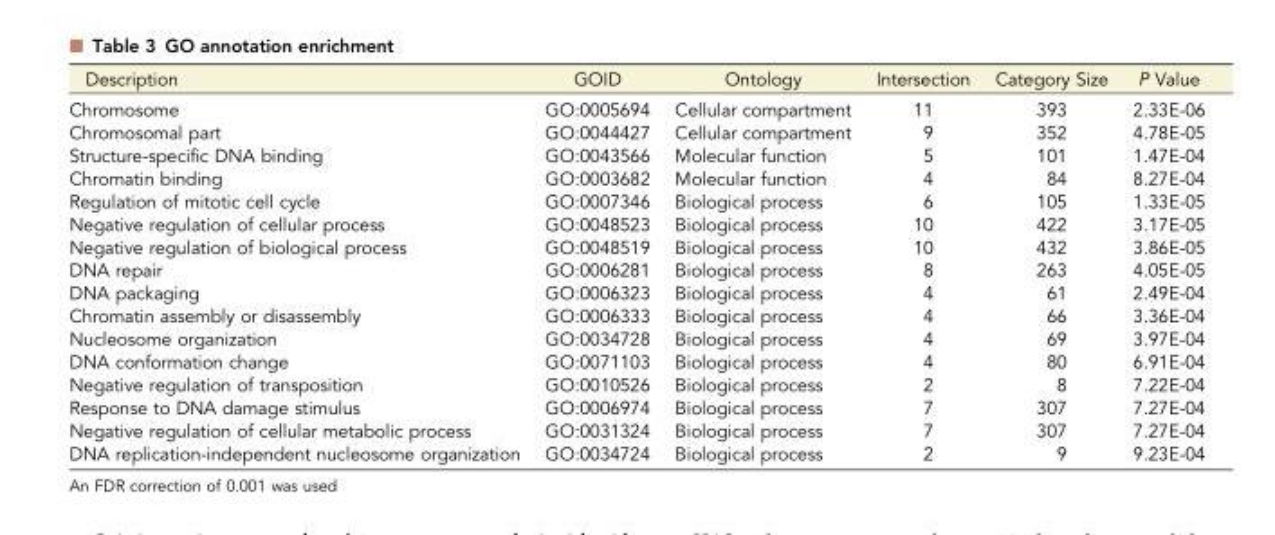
<table><thead><tr><td>Description</td><td>GOID</td><td>Ontology</td><td>Intersection</td><td>Category Size</td><td>P Value</td></tr></thead><tbody><tr><td>Chromosome</td><td>GO:0005694</td><td>Cellular compartment</td><td>11</td><td>393</td><td>2.33E-06</td></tr><tr><td>Chromosomal part</td><td>GO:0044427</td><td>Cellular compartment</td><td>9</td><td>352</td><td>4.78E-05</td></tr><tr><td>Structure-specific DNA binding</td><td>GO:0043566</td><td>Molecular function</td><td>5</td><td>101</td><td>1.47E-04</td></tr><tr><td>Chromatin binding</td><td>GO:0003682</td><td>Molecular function</td><td>4</td><td>84</td><td>8.27E-04</td></tr><tr><td>Regulation of mitotic cell cycle</td><td>GO:0007346</td><td>Biological process</td><td>6</td><td>105</td><td>1.33E-05</td></tr><tr><td>Negative regulation of cellular process</td><td>GO:0048523</td><td>Biological process</td><td>10</td><td>422</td><td>3.17E-05</td></tr><tr><td>Negative regulation of biological process</td><td>GO:0048519</td><td>Biological process</td><td>10</td><td>432</td><td>3.86E-05</td></tr><tr><td>DNA repair</td><td>GO:0006281</td><td>Biological process</td><td>8</td><td>263</td><td>4.05E-05</td></tr><tr><td>DNA packaging</td><td>GO:0006323</td><td>Biological process</td><td>4</td><td>61</td><td>2.49E-04</td></tr><tr><td>Chromatin assembly or disassembly</td><td>GO:0006333</td><td>Biological process</td><td>4</td><td>66</td><td>3.36E-04</td></tr><tr><td>Nucleosome organization</td><td>GO:0034728</td><td>Biological process</td><td>4</td><td>69</td><td>3.97E-04</td></tr><tr><td>DNA conformation change</td><td>GO:0071103</td><td>Biological process</td><td>4</td><td>80</td><td>6.91E-04</td></tr><tr><td>Negative regulation of transposition</td><td>GO:0010526</td><td>Biological process</td><td>2</td><td>8</td><td>7.22E-04</td></tr><tr><td>Response to DNA damage stimulus</td><td>GO:0006974</td><td>Biological process</td><td>7</td><td>307</td><td>7.27E-04</td></tr><tr><td>Negative regulation of cellular metabolic process</td><td>GO:0031324</td><td>Biological process</td><td>7</td><td>307</td><td>7.27E-04</td></tr><tr><td>DNA replication-independent nucleosome organization</td><td>GO:0034724</td><td>Biological process</td><td>2</td><td>9</td><td>9.23E-04</td></tr></tbody></table>